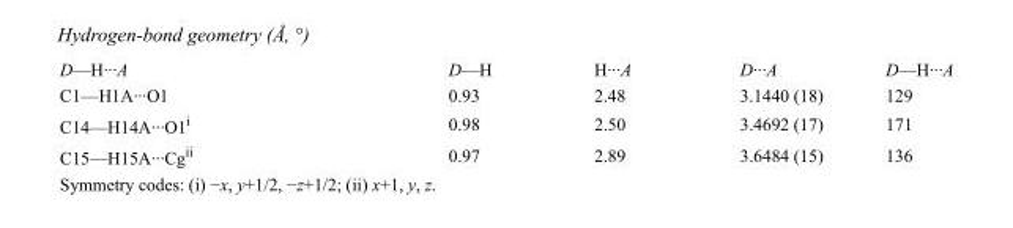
<table><tbody><tr><td>D—H···A</td><td>D—H</td><td>H···A</td><td>D···A</td><td>D—H···A</td></tr><tr><td>C1—H1A···O1</td><td>0.93</td><td>2.48</td><td>3.1440 (18)</td><td>129</td></tr><tr><td>C14—H14A···O1<sup>i</sup></td><td>0.98</td><td>2.50</td><td>3.4692 (17)</td><td>171</td></tr><tr><td>C15—H15A···Cg<sup>ii</sup></td><td>0.97</td><td>2.89</td><td>3.6484 (15)</td><td>136</td></tr></tbody></table>